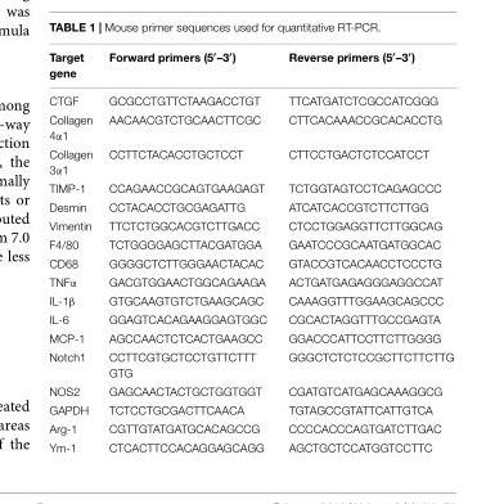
<table><thead><tr><td>Target gene</td><td>Forward primers (5′–3′)</td><td>Reverse primers (5′–3′)</td></tr></thead><tbody><tr><td>CTGF</td><td>GCGCCTGTTCTAAGACCTGT</td><td>TTCATGATCTCGCCATCGGG</td></tr><tr><td>Collagen 4α1</td><td>AACAACGTCTGCAACTTCGC</td><td>CTTCACAAACCGCACACCTG</td></tr><tr><td>Collagen 3α1</td><td>CCTTCTACACCTGCTCCT</td><td>CTTCCTGACTCTCCATCCT</td></tr><tr><td>TIMP-1</td><td>CCAGAACCGCAGTGAAGAGT</td><td>TCTGGTAGTCCTCAGAGCCC</td></tr><tr><td>Desmin</td><td>CCTACACCTGCGAGATTG</td><td>ATCATCACCGTCTTCTTGG</td></tr><tr><td>Vimentin</td><td>TTCTCTGGCACGTCTTGACC</td><td>CTCCTGGAGGTTCTTGGCAG</td></tr><tr><td>F4/80</td><td>TCTGGGGAGCTTACGATGGA</td><td>GAATCCCGCAATGATGGCAC</td></tr><tr><td>CD68</td><td>GGGGCTCTTGGGAACTACAC</td><td>GTACCGTCACAACCTCCCTG</td></tr><tr><td>TNFα</td><td>GACGTGGAACTGGCAGAAGA</td><td>ACTGATGAGAGGGAGGCCAT</td></tr><tr><td>IL-1β</td><td>GTGCAAGTGTCTGAAGCAGC</td><td>CAAAGGTTTGGAAGCAGCCC</td></tr><tr><td>IL-6</td><td>GGAGTCACAGAAGGAGTGGC</td><td>CGCACTAGGTTTGCCGAGTA</td></tr><tr><td>MCP-1</td><td>AGCCAACTCTCACTGAAGCC</td><td>GGACCCATTCCTTCTTGGGG</td></tr><tr><td>Notch1</td><td>CCTTCGTGCTCCTGTTCTTT GTG</td><td>GGGCTCTCTCCGCTTCTTCTTG</td></tr><tr><td>NOS2</td><td>GAGCAACTACTGCTGGTGGT</td><td>CGATGTCATGAGCAAAGGCG</td></tr><tr><td>GAPDH</td><td>TCTCCTGCGACTTCAACA</td><td>TGTAGCCGTATTCATTGTCA</td></tr><tr><td>Arg-1</td><td>CGTTGTATGATGCACAGCCG</td><td>CCCCACCCAGTGATCTTGAC</td></tr><tr><td>Ym-1</td><td>CTCACTTCCACAGGAGCAGG</td><td>AGCTGCTCCATGGTCCTTC</td></tr></tbody></table>